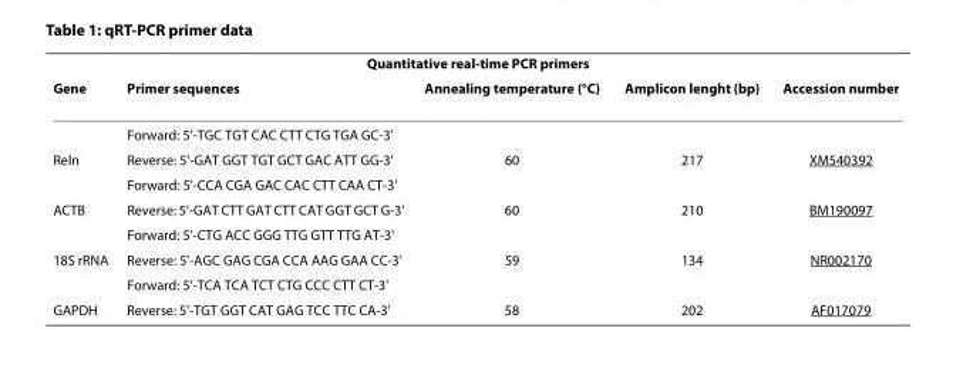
<table><thead><tr><td colspan="5">Quantitative real-time PCR primers</td></tr><tr><td>Gene</td><td>Primer sequences</td><td>Annealing temperature (°C)</td><td>Amplicon lenght (bp)</td><td>Accession number</td></tr></thead><tbody><tr><td></td><td>Forward: 5&#x27;-TGC TGT CAC CTT CTG TGA GC-3&#x27;</td><td></td><td></td><td></td></tr><tr><td rowspan="2">Reln</td><td>Reverse: 5&#x27;-GAT GGT TGT GCT GAC ATT GG-3&#x27;</td><td>60</td><td>217</td><td>XM540392</td></tr><tr><td>Forward: 5&#x27;-CCA CGA GAC CAC CTT CAA CT-3&#x27;</td><td></td><td></td><td></td></tr><tr><td rowspan="2">ACTB</td><td>Reverse: 5&#x27;-GAT CTT GAT CTT CAT GGT GCT G-3&#x27;</td><td>60</td><td>210</td><td>BM190097</td></tr><tr><td>Forward: 5&#x27;-CTG ACC GGG TTG GTT TTG AT-3&#x27;</td><td></td><td></td><td></td></tr><tr><td rowspan="2">18S rRNA</td><td>Reverse: 5&#x27;-AGC GAG CGA CCA AAG GAA CC-3&#x27;</td><td>59</td><td>134</td><td>NR002170</td></tr><tr><td>Forward: 5&#x27;-TCA TCA TCT CTG CCC CTT CT-3&#x27;</td><td></td><td></td><td></td></tr><tr><td>GAPDH</td><td>Reverse: 5&#x27;-TGT GGT CAT GAG TCC TTC CA-3&#x27;</td><td>58</td><td>202</td><td>AF017079</td></tr></tbody></table>